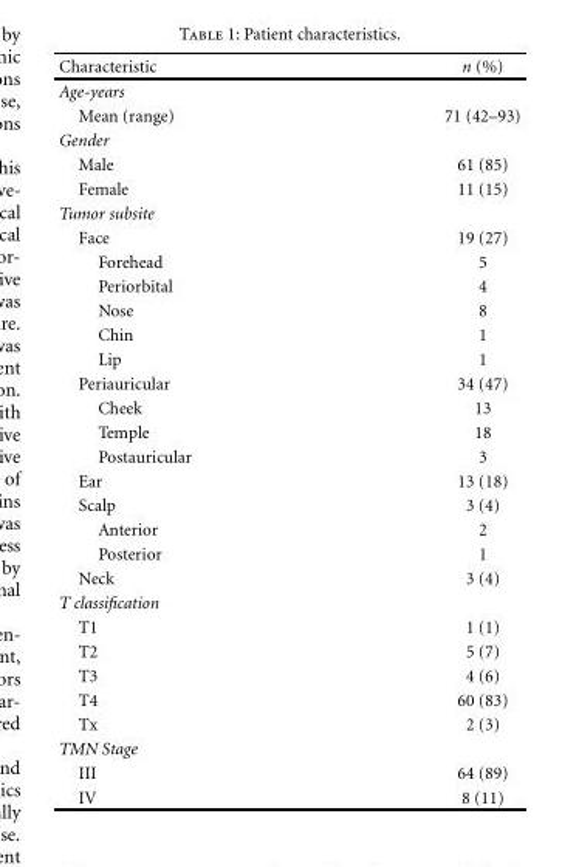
<table><thead><tr><td>Characteristic</td><td>n (%)</td></tr></thead><tbody><tr><td colspan="2">Age-years</td></tr><tr><td>Mean (range)</td><td>71 (42–93)</td></tr><tr><td colspan="2">Gender</td></tr><tr><td>Male</td><td>61 (85)</td></tr><tr><td>Female</td><td>11 (15)</td></tr><tr><td colspan="2">Tumor subsite</td></tr><tr><td>Face</td><td>19 (27)</td></tr><tr><td>Forehead</td><td>5</td></tr><tr><td>Periorbital</td><td>4</td></tr><tr><td>Nose</td><td>8</td></tr><tr><td>Chin</td><td>1</td></tr><tr><td>Lip</td><td>1</td></tr><tr><td>Periauricular</td><td>34 (47)</td></tr><tr><td>Cheek</td><td>13</td></tr><tr><td>Temple</td><td>18</td></tr><tr><td>Postauricular</td><td>3</td></tr><tr><td>Ear</td><td>13 (18)</td></tr><tr><td>Scalp</td><td>3 (4)</td></tr><tr><td>Anterior</td><td>2</td></tr><tr><td>Posterior</td><td>1</td></tr><tr><td>Neck</td><td>3 (4)</td></tr><tr><td colspan="2">T classification</td></tr><tr><td>T1</td><td>1 (1)</td></tr><tr><td>T2</td><td>5 (7)</td></tr><tr><td>T3</td><td>4 (6)</td></tr><tr><td>T4</td><td>60 (83)</td></tr><tr><td>Tx</td><td>2 (3)</td></tr><tr><td colspan="2">TMN Stage</td></tr><tr><td>III</td><td>64 (89)</td></tr><tr><td>IV</td><td>8 (11)</td></tr></tbody></table>